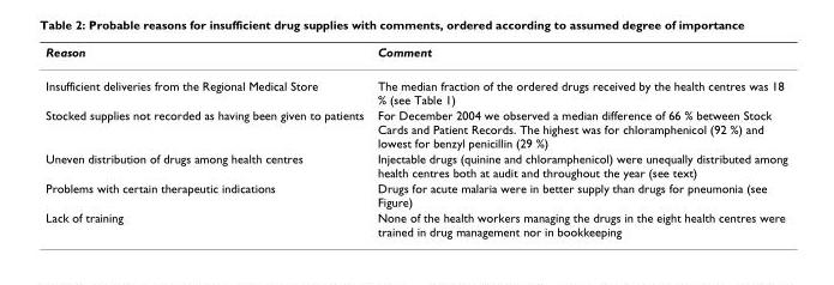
<table><thead><tr><td>Reason</td><td>Comment</td></tr></thead><tbody><tr><td>Insufficient deliveries from the Regional Medical Store</td><td>The median fraction of the ordered drugs received by the health centres was 18 % (see Table 1)</td></tr><tr><td>Stocked supplies not recorded as having been given to patients</td><td>For December 2004 we observed a median difference of 66 % between Stock Cards and Patient Records. The highest was for chloramphenicol (92 %) and lowest for benzyl penicillin (29 %)</td></tr><tr><td>Uneven distribution of drugs among health centres</td><td>Injectable drugs (quinine and chloramphenicol) were unequally distributed among health centres both at audit and throughout the year (see text)</td></tr><tr><td>Problems with certain therapeutic indications</td><td>Drugs for acute malaria were in better supply than drugs for pneumonia (see Figure)</td></tr><tr><td>Lack of training</td><td>None of the health workers managing the drugs in the eight health centres were trained in drug management nor in bookkeeping</td></tr></tbody></table>